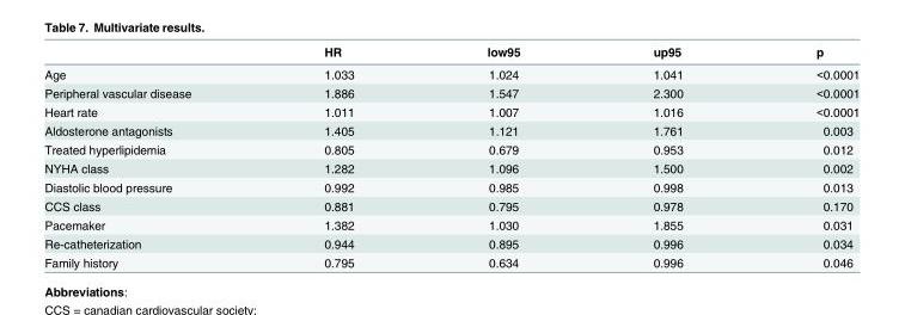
<table><thead><tr><td></td><td>HR</td><td>low95</td><td>up95</td><td>p</td></tr></thead><tbody><tr><td>Age</td><td>1.033</td><td>1.024</td><td>1.041</td><td>&lt;0.0001</td></tr><tr><td>Peripheral vascular disease</td><td>1.886</td><td>1.547</td><td>2.300</td><td>&lt;0.0001</td></tr><tr><td>Heart rate</td><td>1.011</td><td>1.007</td><td>1.016</td><td>&lt;0.0001</td></tr><tr><td>Aldosterone antagonists</td><td>1.405</td><td>1.121</td><td>1.761</td><td>0.003</td></tr><tr><td>Treated hyperlipidemia</td><td>0.805</td><td>0.679</td><td>0.953</td><td>0.012</td></tr><tr><td>NYHA class</td><td>1.282</td><td>1.096</td><td>1.500</td><td>0.002</td></tr><tr><td>Diastolic blood pressure</td><td>0.992</td><td>0.985</td><td>0.998</td><td>0.013</td></tr><tr><td>CCS class</td><td>0.881</td><td>0.795</td><td>0.978</td><td>0.170</td></tr><tr><td>Pacemaker</td><td>1.382</td><td>1.030</td><td>1.855</td><td>0.031</td></tr><tr><td>Re-catheterization</td><td>0.944</td><td>0.895</td><td>0.996</td><td>0.034</td></tr><tr><td>Family history</td><td>0.795</td><td>0.634</td><td>0.996</td><td>0.046</td></tr></tbody></table>